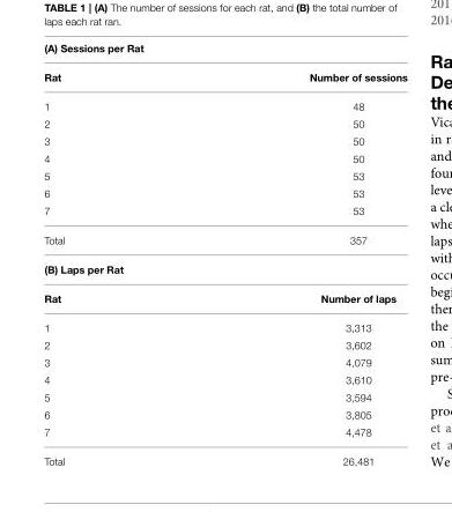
<table><thead><tr><td colspan="2">(A) Sessions per Rat</td></tr><tr><td>Rat</td><td>Number of sessions</td></tr></thead><tbody><tr><td>1</td><td>48</td></tr><tr><td>2</td><td>50</td></tr><tr><td>3</td><td>50</td></tr><tr><td>4</td><td>50</td></tr><tr><td>5</td><td>53</td></tr><tr><td>6</td><td>53</td></tr><tr><td>7</td><td>53</td></tr><tr><td>Total</td><td>357</td></tr><tr><td colspan="2">(B) Laps per Rat</td></tr><tr><td>Rat</td><td>Number of laps</td></tr><tr><td>1</td><td>3,313</td></tr><tr><td>2</td><td>3,602</td></tr><tr><td>3</td><td>4,079</td></tr><tr><td>4</td><td>3,610</td></tr><tr><td>5</td><td>3,594</td></tr><tr><td>6</td><td>3,805</td></tr><tr><td>7</td><td>4,478</td></tr><tr><td>Total</td><td>26,481</td></tr></tbody></table>